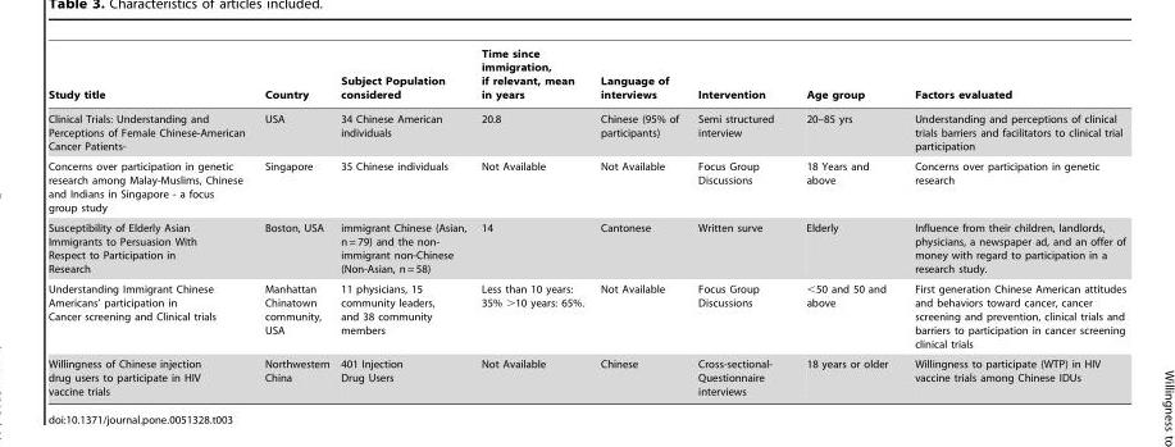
<table><thead><tr><td>Study title</td><td>Country</td><td>Subject Population considered</td><td>Time since immigration, if relevant, mean in years</td><td>Language of interviews</td><td>Intervention</td><td>Age group</td><td>Factors evaluated</td></tr></thead><tbody><tr><td>Clinical Trials: Understanding and Perceptions of Female Chinese-American Cancer Patients-</td><td>USA</td><td>34 Chinese American individuals</td><td>20.8</td><td>Chinese (95% of participants)</td><td>Semi structured interview</td><td>20–85 yrs</td><td>Understanding and perceptions of clinical trials barriers and facilitators to clinical trial participation</td></tr><tr><td>Concerns over participation in genetic research among Malay-Muslims, Chinese and Indians in Singapore - a focus group study</td><td>Singapore</td><td>35 Chinese individuals</td><td>Not Available</td><td>Not Available</td><td>Focus Group Discussions</td><td>18 Years and above</td><td>Concerns over participation in genetic research</td></tr><tr><td>Susceptibility of Elderly Asian Immigrants to Persuasion With Respect to Participation in Research</td><td>Boston, USA</td><td>immigrant Chinese (Asian, n = 79) and the non- immigrant non-Chinese (Non-Asian, n = 58)</td><td>14</td><td>Cantonese</td><td>Written surve</td><td>Elderly</td><td>Influence from their children, landlords, physicians, a newspaper ad, and an offer of money with regard to participation in a research study.</td></tr><tr><td>Understanding Immigrant Chinese Americans’ participation in Cancer screening and Clinical trials</td><td>Manhattan Chinatown community, USA</td><td>11 physicians, 15 community leaders, and 38 community members</td><td>Less than 10 years: 35% &gt;10 years: 65%.</td><td>Not Available</td><td>Focus Group Discussions</td><td>&lt;50 and 50 and above</td><td>First generation Chinese American attitudes and behaviors toward cancer, cancer screening and prevention, clinical trials and barriers to participation in cancer screening clinical trials</td></tr><tr><td>Willingness of Chinese injection drug users to participate in HIV vaccine trials</td><td>Northwestern China</td><td>401 Injection Drug Users</td><td>Not Available</td><td>Chinese</td><td>Cross-sectional- Questionnaire interviews</td><td>18 years or older</td><td>Willingness to participate (WTP) in HIV vaccine trials among Chinese IDUs</td></tr></tbody></table>